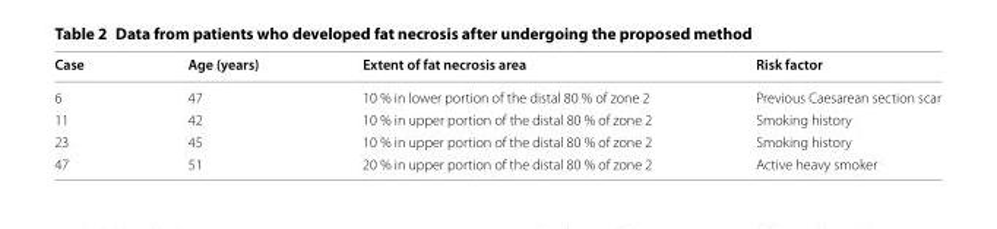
<table><thead><tr><td>Case</td><td>Age (years)</td><td>Extent of fat necrosis area</td><td>Risk factor</td></tr></thead><tbody><tr><td>6</td><td>47</td><td>10 % in lower portion of the distal 80 % of zone 2</td><td>Previous Caesarean section scar</td></tr><tr><td>11</td><td>42</td><td>10 % in upper portion of the distal 80 % of zone 2</td><td>Smoking history</td></tr><tr><td>23</td><td>45</td><td>10 % in upper portion of the distal 80 % of zone 2</td><td>Smoking history</td></tr><tr><td>47</td><td>51</td><td>20 % in upper portion of the distal 80 % of zone 2</td><td>Active heavy smoker</td></tr></tbody></table>